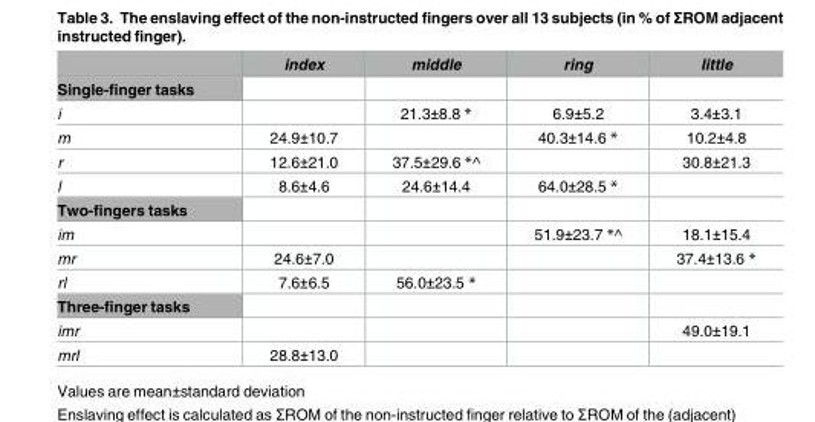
<table><thead><tr><td></td><td>index</td><td>middle</td><td>ring</td><td>little</td></tr></thead><tbody><tr><td colspan="5">Single-finger tasks</td></tr><tr><td>i</td><td></td><td>21.3±8.8 *</td><td>6.9±5.2</td><td>3.4±3.1</td></tr><tr><td>m</td><td>24.9±10.7</td><td></td><td>40.3±14.6 *</td><td>10.2±4.8</td></tr><tr><td>r</td><td>12.6±21.0</td><td>37.5±29.6 *^</td><td></td><td>30.8±21.3</td></tr><tr><td>l</td><td>8.6±4.6</td><td>24.6±14.4</td><td>64.0±28.5 *</td><td></td></tr><tr><td colspan="5">Two-fingers tasks</td></tr><tr><td>im</td><td></td><td></td><td>51.9±23.7 *^</td><td>18.1±15.4</td></tr><tr><td>mr</td><td>24.6±7.0</td><td></td><td></td><td>37.4±13.6 *</td></tr><tr><td>rl</td><td>7.6±6.5</td><td>56.0±23.5 *</td><td></td><td></td></tr><tr><td colspan="5">Three-finger tasks</td></tr><tr><td>imr</td><td></td><td></td><td></td><td>49.0±19.1</td></tr><tr><td>mrl</td><td>28.8±13.0</td><td></td><td></td><td></td></tr></tbody></table>